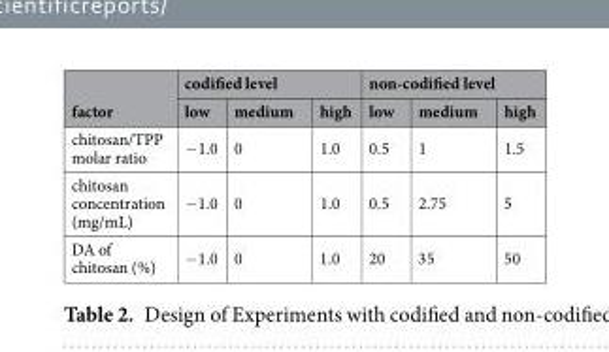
<table><thead><tr><td rowspan="2">factor</td><td colspan="3">codified level</td><td colspan="3">non-codified level</td></tr><tr><td>low</td><td>medium</td><td>high</td><td>low</td><td>medium</td><td>high</td></tr></thead><tbody><tr><td>chitosan/TPP molar ratio</td><td>−1.0</td><td>0</td><td>1.0</td><td>0.5</td><td>1</td><td>1.5</td></tr><tr><td>chitosan concentration (mg/mL)</td><td>−1.0</td><td>0</td><td>1.0</td><td>0.5</td><td>2.75</td><td>5</td></tr><tr><td>DA of chitosan (%)</td><td>−1.0</td><td>0</td><td>1.0</td><td>20</td><td>35</td><td>50</td></tr></tbody></table>